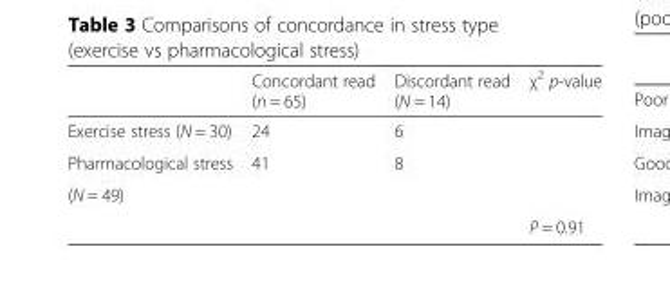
<table><thead><tr><td></td><td>Concordant read (n = 65)</td><td>Discordant read (N = 14)</td><td>χ<sup>2</sup> p-value</td></tr></thead><tbody><tr><td>Exercise stress (N = 30)</td><td>24</td><td>6</td><td></td></tr><tr><td>Pharmacological stress</td><td rowspan="2">41</td><td rowspan="2">8</td><td rowspan="2"></td></tr><tr><td rowspan="2">(N = 49)</td></tr><tr><td></td><td></td><td>P = 0.91</td></tr></tbody></table>